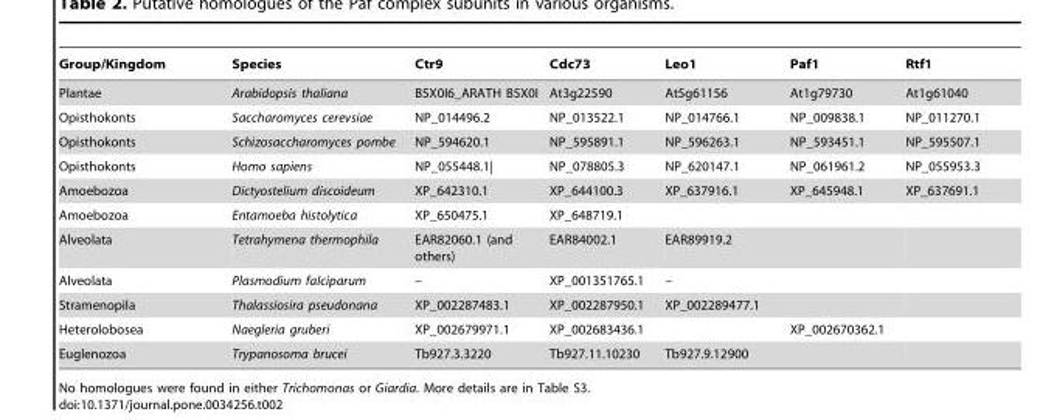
<table><thead><tr><td>Group/Kingdom</td><td>Species</td><td>Ctr9</td><td>Cdc73</td><td>Leo1</td><td>Paf1</td><td>Rtf1</td></tr></thead><tbody><tr><td>Plantae</td><td>Arabidopsis thaliana</td><td>B5X0I6_ARATH B5X0I</td><td>At3g22590</td><td>At5g61156</td><td>At1g79730</td><td>At1g61040</td></tr><tr><td>Opisthokonts</td><td>Saccharomyces cerevsiae</td><td>NP_014496.2</td><td>NP_013522.1</td><td>NP_014766.1</td><td>NP_009838.1</td><td>NP_011270.1</td></tr><tr><td>Opisthokonts</td><td>Schizosaccharomyces pombe</td><td>NP_594620.1</td><td>NP_595891.1</td><td>NP_596263.1</td><td>NP_593451.1</td><td>NP_595507.1</td></tr><tr><td>Opisthokonts</td><td>Homo sapiens</td><td>NP_055448.1|</td><td>NP_078805.3</td><td>NP_620147.1</td><td>NP_061961.2</td><td>NP_055953.3</td></tr><tr><td>Amoebozoa</td><td>Dictyostelium discoideum</td><td>XP_642310.1</td><td>XP_644100.3</td><td>XP_637916.1</td><td>XP_645948.1</td><td>XP_637691.1</td></tr><tr><td>Amoebozoa</td><td>Entamoeba histolytica</td><td>XP_650475.1</td><td>XP_648719.1</td><td></td><td></td><td></td></tr><tr><td>Alveolata</td><td>Tetrahymena thermophila</td><td>EAR82060.1 (and others)</td><td>EAR84002.1</td><td>EAR89919.2</td><td></td><td></td></tr><tr><td>Alveolata</td><td>Plasmodium falciparum</td><td>–</td><td>XP_001351765.1</td><td>–</td><td></td><td></td></tr><tr><td>Stramenopila</td><td>Thalassiosira pseudonana</td><td>XP_002287483.1</td><td>XP_002287950.1</td><td>XP_002289477.1</td><td></td><td></td></tr><tr><td>Heterolobosea</td><td>Naegleria gruberi</td><td>XP_002679971.1</td><td>XP_002683436.1</td><td></td><td>XP_002670362.1</td><td></td></tr><tr><td>Euglenozoa</td><td>Trypanosoma brucei</td><td>Tb927.3.3220</td><td>Tb927.11.10230</td><td>Tb927.9.12900</td><td></td><td></td></tr></tbody></table>